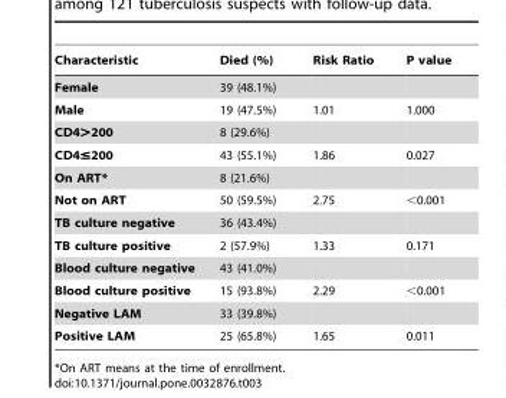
<table><thead><tr><td>Characteristic</td><td>Died (%)</td><td>Risk Ratio</td><td>P value</td></tr></thead><tbody><tr><td>Female</td><td>39 (48.1%)</td><td></td><td></td></tr><tr><td>Male</td><td>19 (47.5%)</td><td>1.01</td><td>1.000</td></tr><tr><td>CD4&gt;200</td><td>8 (29.6%)</td><td></td><td></td></tr><tr><td>CD4≤200</td><td>43 (55.1%)</td><td>1.86</td><td>0.027</td></tr><tr><td>On ART*</td><td>8 (21.6%)</td><td></td><td></td></tr><tr><td>Not on ART</td><td>50 (59.5%)</td><td>2.75</td><td>&lt;0.001</td></tr><tr><td>TB culture negative</td><td>36 (43.4%)</td><td></td><td></td></tr><tr><td>TB culture positive</td><td>2 (57.9%)</td><td>1.33</td><td>0.171</td></tr><tr><td>Blood culture negative</td><td>43 (41.0%)</td><td></td><td></td></tr><tr><td>Blood culture positive</td><td>15 (93.8%)</td><td>2.29</td><td>&lt;0.001</td></tr><tr><td>Negative LAM</td><td>33 (39.8%)</td><td></td><td></td></tr><tr><td>Positive LAM</td><td>25 (65.8%)</td><td>1.65</td><td>0.011</td></tr></tbody></table>